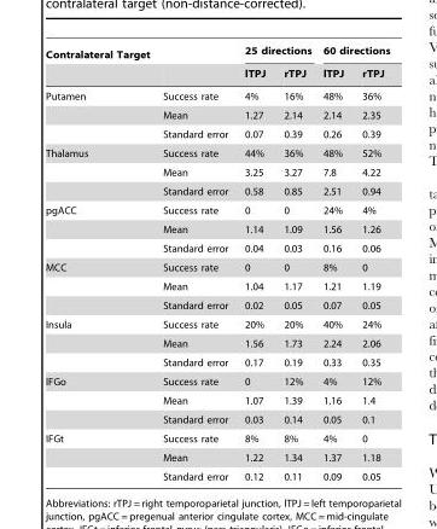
<table><thead><tr><td rowspan="2">Contralateral Target</td><td rowspan="2"></td><td colspan="2">25 directions</td><td colspan="2">60 directions</td></tr><tr><td>lTPJ</td><td>rTPJ</td><td>lTPJ</td><td>rTPJ</td></tr></thead><tbody><tr><td rowspan="3">Putamen</td><td>Success rate</td><td>4%</td><td>16%</td><td>48%</td><td>36%</td></tr><tr><td>Mean</td><td>1.27</td><td>2.14</td><td>2.14</td><td>2.35</td></tr><tr><td>Standard error</td><td>0.07</td><td>0.39</td><td>0.26</td><td>0.39</td></tr><tr><td rowspan="3">Thalamus</td><td>Success rate</td><td>44%</td><td>36%</td><td>48%</td><td>52%</td></tr><tr><td>Mean</td><td>3.25</td><td>3.27</td><td>7.8</td><td>4.22</td></tr><tr><td>Standard error</td><td>0.58</td><td>0.85</td><td>2.51</td><td>0.94</td></tr><tr><td rowspan="3">pgACC</td><td>Success rate</td><td>0</td><td>0</td><td>24%</td><td>4%</td></tr><tr><td>Mean</td><td>1.14</td><td>1.09</td><td>1.56</td><td>1.26</td></tr><tr><td>Standard error</td><td>0.04</td><td>0.03</td><td>0.16</td><td>0.06</td></tr><tr><td rowspan="3">MCC</td><td>Success rate</td><td>0</td><td>0</td><td>8%</td><td>0</td></tr><tr><td>Mean</td><td>1.04</td><td>1.17</td><td>1.21</td><td>1.19</td></tr><tr><td>Standard error</td><td>0.02</td><td>0.05</td><td>0.07</td><td>0.05</td></tr><tr><td rowspan="3">Insula</td><td>Success rate</td><td>20%</td><td>20%</td><td>40%</td><td>24%</td></tr><tr><td>Mean</td><td>1.56</td><td>1.73</td><td>2.24</td><td>2.06</td></tr><tr><td>Standard error</td><td>0.17</td><td>0.19</td><td>0.33</td><td>0.35</td></tr><tr><td rowspan="3">IFGo</td><td>Success rate</td><td>0</td><td>12%</td><td>4%</td><td>12%</td></tr><tr><td>Mean</td><td>1.07</td><td>1.39</td><td>1.16</td><td>1.4</td></tr><tr><td>Standard error</td><td>0.03</td><td>0.14</td><td>0.05</td><td>0.1</td></tr><tr><td rowspan="3">IFGt</td><td>Success rate</td><td>8%</td><td>8%</td><td>4%</td><td>0</td></tr><tr><td>Mean</td><td>1.22</td><td>1.34</td><td>1.37</td><td>1.18</td></tr><tr><td>Standard error</td><td>0.12</td><td>0.11</td><td>0.09</td><td>0.05</td></tr></tbody></table>